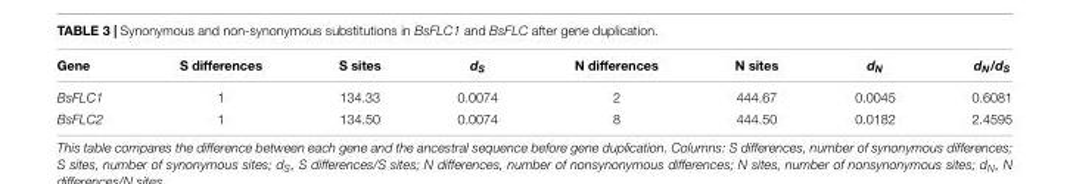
<table><thead><tr><td>Gene</td><td>S differences</td><td>S sites</td><td>d<sub>S</sub></td><td>N differences</td><td>N sites</td><td>d<sub>N</sub></td><td>d<sub>N</sub>/d<sub>S</sub></td></tr></thead><tbody><tr><td>BsFLC1</td><td>1</td><td>134.33</td><td>0.0074</td><td>2</td><td>444.67</td><td>0.0045</td><td>0.6081</td></tr><tr><td>BsFLC2</td><td>1</td><td>134.50</td><td>0.0074</td><td>8</td><td>444.50</td><td>0.0182</td><td>2.4595</td></tr></tbody></table>